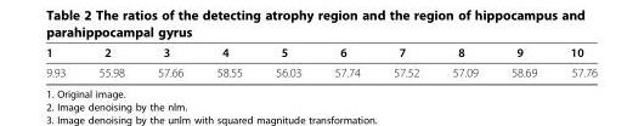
<table><thead><tr><td>1</td><td>2</td><td>3</td><td>4</td><td>5</td><td>6</td><td>7</td><td>8</td><td>9</td><td>10</td></tr></thead><tbody><tr><td>9.93</td><td>55.98</td><td>57.66</td><td>58.55</td><td>56.03</td><td>57.74</td><td>57.52</td><td>57.09</td><td>58.69</td><td>57.76</td></tr></tbody></table>